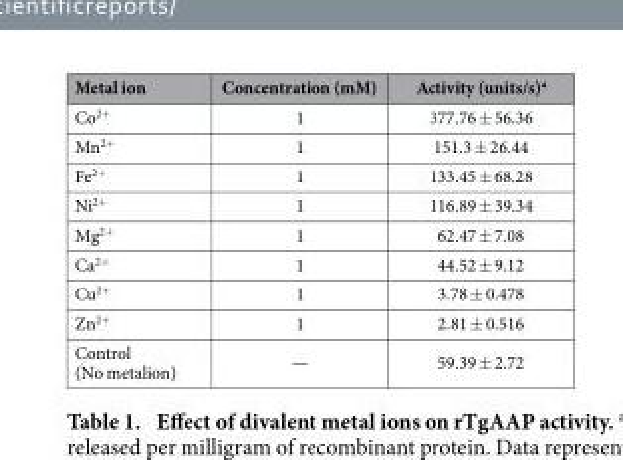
<table><thead><tr><td>Metal ion</td><td>Concentration (mM)</td><td>Activity (units/s)<sup>a</sup></td></tr></thead><tbody><tr><td>Co<sup>2+</sup></td><td>1</td><td>377.76 ± 56.36</td></tr><tr><td>Mn<sup>2+</sup></td><td>1</td><td>151.3 ± 26.44</td></tr><tr><td>Fe<sup>2+</sup></td><td>1</td><td>133.45 ± 68.28</td></tr><tr><td>Ni<sup>2+</sup></td><td>1</td><td>116.89 ± 39.34</td></tr><tr><td>Mg<sup>2+</sup></td><td>1</td><td>62.47 ± 7.08</td></tr><tr><td>Ca<sup>2+</sup></td><td>1</td><td>44.52 ± 9.12</td></tr><tr><td>Cu<sup>2+</sup></td><td>1</td><td>3.78 ± 0.478</td></tr><tr><td>Zn<sup>2+</sup></td><td>1</td><td>2.81 ± 0.516</td></tr><tr><td>Control (No metalion)</td><td>—</td><td>59.39 ± 2.72</td></tr></tbody></table>